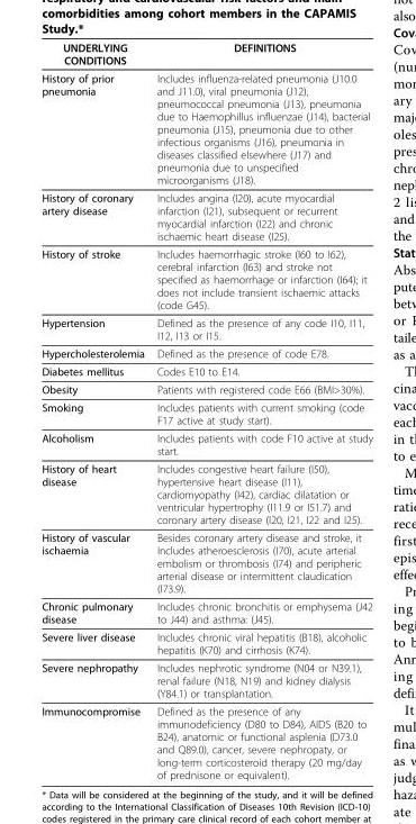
<table><thead><tr><td>UNDERLYING CONDITIONS</td><td>DEFINITIONS</td></tr></thead><tbody><tr><td>History of prior pneumonia</td><td>Includes influenza-related pneumonia (J10.0 and J11.0), viral pneumonia (J12), pneumococcal pneumonia (J13), pneumonia due to Haemophillus influenzae (J14), bacterial pneumonia (J15), pneumonia due to other infectious organisms (J16), pneumonia in diseases classified elsewhere (J17) and pneumonia due to unspecified microorganisms (J18).</td></tr><tr><td>History of coronary artery disease</td><td>Includes angina (I20), acute myocardial infarction (I21), subsequent or recurrent myocardial infarction (I22) and chronic ischaemic heart disease (I25).</td></tr><tr><td>History of stroke</td><td>Includes haemorrhagic stroke (I60 to I62), cerebral infarction (I63) and stroke not specified as haemorrhage or infarction (I64); it does not include transient ischaemic attacks (code G45).</td></tr><tr><td>Hypertension</td><td>Defined as the presence of any code I10, I11, I12, I13 or I15.</td></tr><tr><td>Hypercholesterolemia</td><td>Defined as the presence of code E78.</td></tr><tr><td>Diabetes mellitus</td><td>Codes E10 to E14.</td></tr><tr><td>Obesity</td><td>Patients with registered code E66 (BMI&gt;30%).</td></tr><tr><td>Smoking</td><td>Includes patients with current smoking (code F17 active at study start).</td></tr><tr><td>Alcoholism</td><td>Includes patients with code F10 active at study start.</td></tr><tr><td>History of heart disease</td><td>Includes congestive heart failure (I50), hypertensive heart disease (I11), cardiomyopathy (I42), cardiac dilatation or ventricular hypertrophy (I11.9 or I51.7) and coronary artery disease (I20, I21, I22 and I25).</td></tr><tr><td>History of vascular ischaemia</td><td>Besides coronary artery disease and stroke, it Includes atheroesclerosis (I70), acute arterial embolism or thrombosis (I74) and peripheric arterial disease or intermittent claudication (I73.9).</td></tr><tr><td>Chronic pulmonary disease</td><td>Includes chronic bronchitis or emphysema (J42 to J44) and asthma: (J45).</td></tr><tr><td>Severe liver disease</td><td>Includes chronic viral hepatitis (B18), alcoholic hepatitis (K70) and cirrhosis (K74).</td></tr><tr><td>Severe nephropathy</td><td>Includes nephrotic syndrome (N04 or N39.1), renal failure (N18, N19) and kidney dialysis (Y84.1) or transplantation.</td></tr><tr><td>Immunocompromise</td><td>Defined as the presence of any immunodeficiency (D80 to D84), AIDS (B20 to B24), anatomic or functional asplenia (D73.0 and Q89.0), cancer, severe nephropaty, or long-term corticosteroid therapy (20 mg/day of prednisone or equivalent).</td></tr></tbody></table>